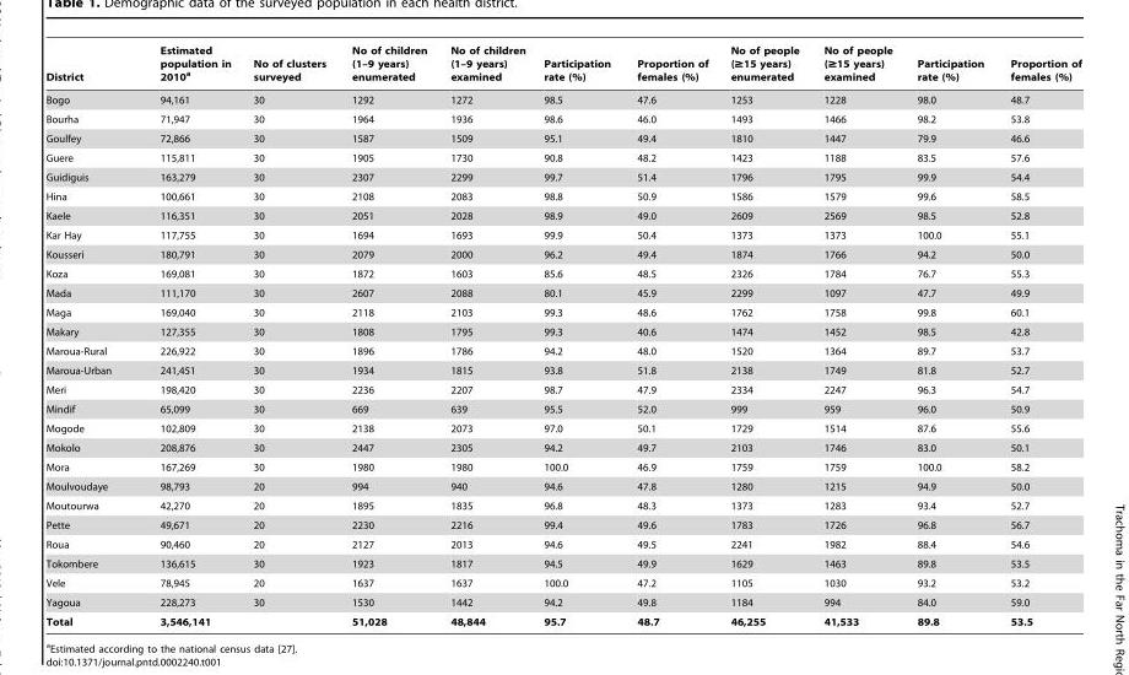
<table><thead><tr><td>District</td><td>Estimated population in 2010<sup>a</sup></td><td>No of clusters surveyed</td><td>No of children (1–9 years) enumerated</td><td>No of children (1–9 years) examined</td><td>Participation rate (%)</td><td>Proportion of females (%)</td><td>No of people (≥15 years) enumerated</td><td>No of people (≥15 years) examined</td><td>Participation rate (%)</td><td>Proportion of females (%)</td></tr></thead><tbody><tr><td>Bogo</td><td>94,161</td><td>30</td><td>1292</td><td>1272</td><td>98.5</td><td>47.6</td><td>1253</td><td>1228</td><td>98.0</td><td>48.7</td></tr><tr><td>Bourha</td><td>71,947</td><td>30</td><td>1964</td><td>1936</td><td>98.6</td><td>46.0</td><td>1493</td><td>1466</td><td>98.2</td><td>53.8</td></tr><tr><td>Goulfey</td><td>72,866</td><td>30</td><td>1587</td><td>1509</td><td>95.1</td><td>49.4</td><td>1810</td><td>1447</td><td>79.9</td><td>46.6</td></tr><tr><td>Guere</td><td>115,811</td><td>30</td><td>1905</td><td>1730</td><td>90.8</td><td>48.2</td><td>1423</td><td>1188</td><td>83.5</td><td>57.6</td></tr><tr><td>Guidiguis</td><td>163,279</td><td>30</td><td>2307</td><td>2299</td><td>99.7</td><td>51.4</td><td>1796</td><td>1795</td><td>99.9</td><td>54.4</td></tr><tr><td>Hina</td><td>100,661</td><td>30</td><td>2108</td><td>2083</td><td>98.8</td><td>50.9</td><td>1586</td><td>1579</td><td>99.6</td><td>58.5</td></tr><tr><td>Kaele</td><td>116,351</td><td>30</td><td>2051</td><td>2028</td><td>98.9</td><td>49.0</td><td>2609</td><td>2569</td><td>98.5</td><td>52.8</td></tr><tr><td>Kar Hay</td><td>117,755</td><td>30</td><td>1694</td><td>1693</td><td>99.9</td><td>50.4</td><td>1373</td><td>1373</td><td>100.0</td><td>55.1</td></tr><tr><td>Kousseri</td><td>180,791</td><td>30</td><td>2079</td><td>2000</td><td>96.2</td><td>49.4</td><td>1874</td><td>1766</td><td>94.2</td><td>50.0</td></tr><tr><td>Koza</td><td>169,081</td><td>30</td><td>1872</td><td>1603</td><td>85.6</td><td>48.5</td><td>2326</td><td>1784</td><td>76.7</td><td>55.3</td></tr><tr><td>Mada</td><td>111,170</td><td>30</td><td>2607</td><td>2088</td><td>80.1</td><td>45.9</td><td>2299</td><td>1097</td><td>47.7</td><td>49.9</td></tr><tr><td>Maga</td><td>169,040</td><td>30</td><td>2118</td><td>2103</td><td>99.3</td><td>48.6</td><td>1762</td><td>1758</td><td>99.8</td><td>60.1</td></tr><tr><td>Makary</td><td>127,355</td><td>30</td><td>1808</td><td>1795</td><td>99.3</td><td>40.6</td><td>1474</td><td>1452</td><td>98.5</td><td>42.8</td></tr><tr><td>Maroua-Rural</td><td>226,922</td><td>30</td><td>1896</td><td>1786</td><td>94.2</td><td>48.0</td><td>1520</td><td>1364</td><td>89.7</td><td>53.7</td></tr><tr><td>Maroua-Urban</td><td>241,451</td><td>30</td><td>1934</td><td>1815</td><td>93.8</td><td>51.8</td><td>2138</td><td>1749</td><td>81.8</td><td>52.7</td></tr><tr><td>Meri</td><td>198,420</td><td>30</td><td>2236</td><td>2207</td><td>98.7</td><td>47.9</td><td>2334</td><td>2247</td><td>96.3</td><td>54.7</td></tr><tr><td>Mindif</td><td>65,099</td><td>30</td><td>669</td><td>639</td><td>95.5</td><td>52.0</td><td>999</td><td>959</td><td>96.0</td><td>50.9</td></tr><tr><td>Mogode</td><td>102,809</td><td>30</td><td>2138</td><td>2073</td><td>97.0</td><td>50.1</td><td>1729</td><td>1514</td><td>87.6</td><td>55.6</td></tr><tr><td>Mokolo</td><td>208,876</td><td>30</td><td>2447</td><td>2305</td><td>94.2</td><td>49.7</td><td>2103</td><td>1746</td><td>83.0</td><td>50.1</td></tr><tr><td>Mora</td><td>167,269</td><td>30</td><td>1980</td><td>1980</td><td>100.0</td><td>46.9</td><td>1759</td><td>1759</td><td>100.0</td><td>58.2</td></tr><tr><td>Moulvoudaye</td><td>98,793</td><td>20</td><td>994</td><td>940</td><td>94.6</td><td>47.8</td><td>1280</td><td>1215</td><td>94.9</td><td>50.0</td></tr><tr><td>Moutourwa</td><td>42,270</td><td>20</td><td>1895</td><td>1835</td><td>96.8</td><td>48.3</td><td>1373</td><td>1283</td><td>93.4</td><td>52.7</td></tr><tr><td>Pette</td><td>49,671</td><td>20</td><td>2230</td><td>2216</td><td>99.4</td><td>49.6</td><td>1783</td><td>1726</td><td>96.8</td><td>56.7</td></tr><tr><td>Roua</td><td>90,460</td><td>20</td><td>2127</td><td>2013</td><td>94.6</td><td>49.5</td><td>2241</td><td>1982</td><td>88.4</td><td>54.6</td></tr><tr><td>Tokombere</td><td>136,615</td><td>30</td><td>1923</td><td>1817</td><td>94.5</td><td>49.9</td><td>1629</td><td>1463</td><td>89.8</td><td>53.5</td></tr><tr><td>Vele</td><td>78,945</td><td>20</td><td>1637</td><td>1637</td><td>100.0</td><td>47.2</td><td>1105</td><td>1030</td><td>93.2</td><td>53.2</td></tr><tr><td>Yagoua</td><td>228,273</td><td>30</td><td>1530</td><td>1442</td><td>94.2</td><td>49.8</td><td>1184</td><td>994</td><td>84.0</td><td>59.0</td></tr><tr><td>Total</td><td>3,546,141</td><td></td><td>51,028</td><td>48,844</td><td>95.7</td><td>48.7</td><td>46,255</td><td>41,533</td><td>89.8</td><td>53.5</td></tr></tbody></table>